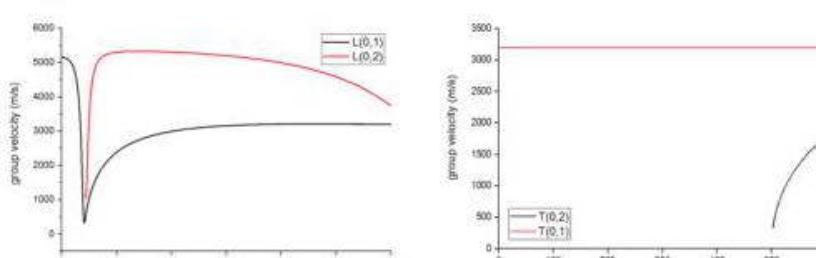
<table><thead><tr><td>Parameter</td><td>Pipe</td><td>Waveguide (Plate)</td></tr></thead><tbody><tr><td>Inner radius (width of plate)/mm</td><td>18.195</td><td>10</td></tr><tr><td>Thickness/mm</td><td>3.22</td><td>0.6</td></tr><tr><td>Velocity of shear wave/(m/s)</td><td>3200</td><td>3200</td></tr><tr><td>Velocity of longitudinal wave/(m/s)</td><td>5940</td><td>5200</td></tr></tbody></table>